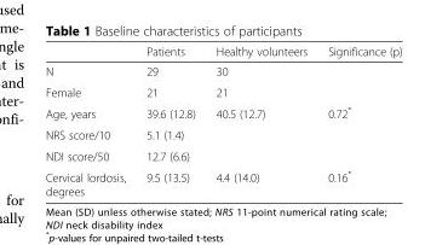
<table><thead><tr><td></td><td>Patients</td><td>Healthy volunteers</td><td>Significance (p)</td></tr></thead><tbody><tr><td>N</td><td>29</td><td>30</td><td></td></tr><tr><td>Female</td><td>21</td><td>21</td><td></td></tr><tr><td>Age, years</td><td>39.6 (12.8)</td><td>40.5 (12.7)</td><td>0.72*</td></tr><tr><td>NRS score/10</td><td>5.1 (1.4)</td><td></td><td></td></tr><tr><td>NDI score/50</td><td>12.7 (6.6)</td><td></td><td></td></tr><tr><td>Cervical lordosis, degrees</td><td>9.5 (13.5)</td><td>4.4 (14.0)</td><td>0.16*</td></tr></tbody></table>